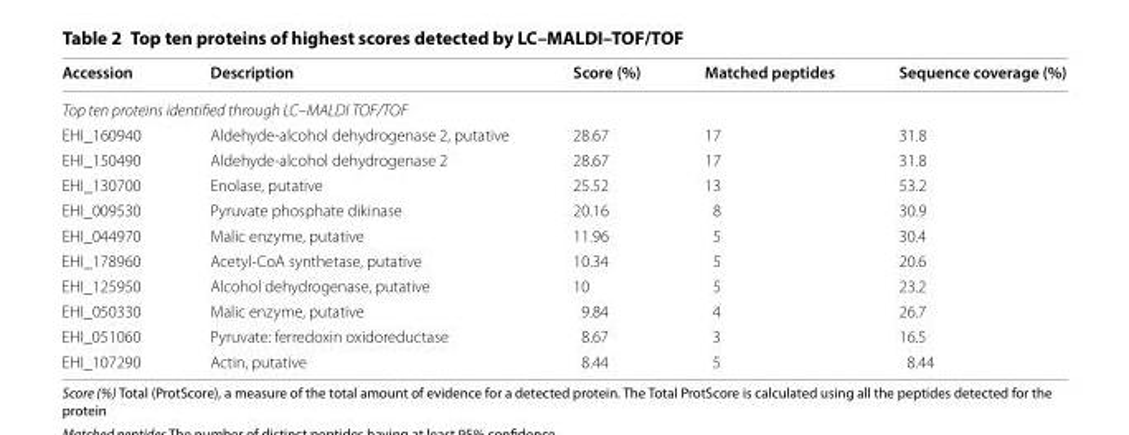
<table><thead><tr><td>Accession</td><td>Description</td><td>Score (%)</td><td>Matched peptides</td><td>Sequence coverage (%)</td></tr></thead><tbody><tr><td colspan="5">Top ten proteins identified through LC–MALDI TOF/TOF</td></tr><tr><td>EHI_160940</td><td>Aldehyde-alcohol dehydrogenase 2, putative</td><td>28.67</td><td>17</td><td>31.8</td></tr><tr><td>EHI_150490</td><td>Aldehyde-alcohol dehydrogenase 2</td><td>28.67</td><td>17</td><td>31.8</td></tr><tr><td>EHI_130700</td><td>Enolase, putative</td><td>25.52</td><td>13</td><td>53.2</td></tr><tr><td>EHI_009530</td><td>Pyruvate phosphate dikinase</td><td>20.16</td><td>8</td><td>30.9</td></tr><tr><td>EHI_044970</td><td>Malic enzyme, putative</td><td>11.96</td><td>5</td><td>30.4</td></tr><tr><td>EHI_178960</td><td>Acetyl-CoA synthetase, putative</td><td>10.34</td><td>5</td><td>20.6</td></tr><tr><td>EHI_125950</td><td>Alcohol dehydrogenase, putative</td><td>10</td><td>5</td><td>23.2</td></tr><tr><td>EHI_050330</td><td>Malic enzyme, putative</td><td>9.84</td><td>4</td><td>26.7</td></tr><tr><td>EHI_051060</td><td>Pyruvate: ferredoxin oxidoreductase</td><td>8.67</td><td>3</td><td>16.5</td></tr><tr><td>EHI_107290</td><td>Actin, putative</td><td>8.44</td><td>5</td><td>8.44</td></tr></tbody></table>